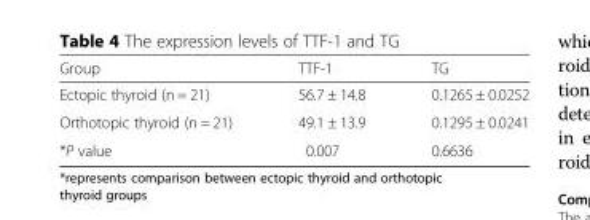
<table><thead><tr><td>Group</td><td>TTF-1</td><td>TG</td></tr></thead><tbody><tr><td>Ectopic thyroid (n = 21)</td><td>56.7 ± 14.8</td><td>0.1265 ± 0.0252</td></tr><tr><td>Orthotopic thyroid (n = 21)</td><td>49.1 ± 13.9</td><td>0.1295 ± 0.0241</td></tr><tr><td>*P value</td><td>0.007</td><td>0.6636</td></tr></tbody></table>